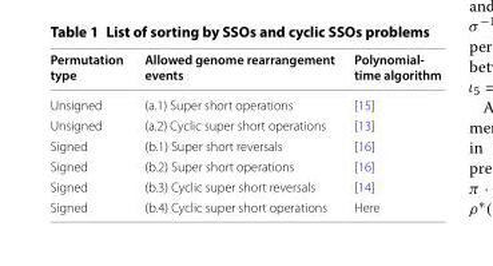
<table><thead><tr><td>Permutation type</td><td>Allowed genome rearrangement events</td><td>Polynomial- time algorithm</td></tr></thead><tbody><tr><td>Unsigned</td><td>(a.1) Super short operations</td><td>[15]</td></tr><tr><td>Unsigned</td><td>(a.2) Cyclic super short operations</td><td>[13]</td></tr><tr><td>Signed</td><td>(b.1) Super short reversals</td><td>[16]</td></tr><tr><td>Signed</td><td>(b.2) Super short operations</td><td>[16]</td></tr><tr><td>Signed</td><td>(b.3) Cyclic super short reversals</td><td>[14]</td></tr><tr><td>Signed</td><td>(b.4) Cyclic super short operations</td><td>Here</td></tr></tbody></table>